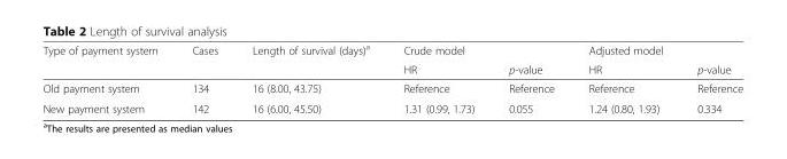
<table><thead><tr><td rowspan="2">Type of payment system</td><td rowspan="2">Cases</td><td rowspan="2">Length of survival (days)<sup>a</sup></td><td rowspan="2">Crude model HR</td><td rowspan="2">p-value</td><td rowspan="2">Adjusted model HR</td><td rowspan="2">p-value</td></tr><tr></tr></thead><tbody><tr><td>Old payment system</td><td>134</td><td>16 (8.00, 43.75)</td><td>Reference</td><td>Reference</td><td>Reference</td><td>Reference</td></tr><tr><td>New payment system</td><td>142</td><td>16 (6.00, 45.50)</td><td>1.31 (0.99, 1.73)</td><td>0.055</td><td>1.24 (0.80, 1.93)</td><td>0.334</td></tr></tbody></table>